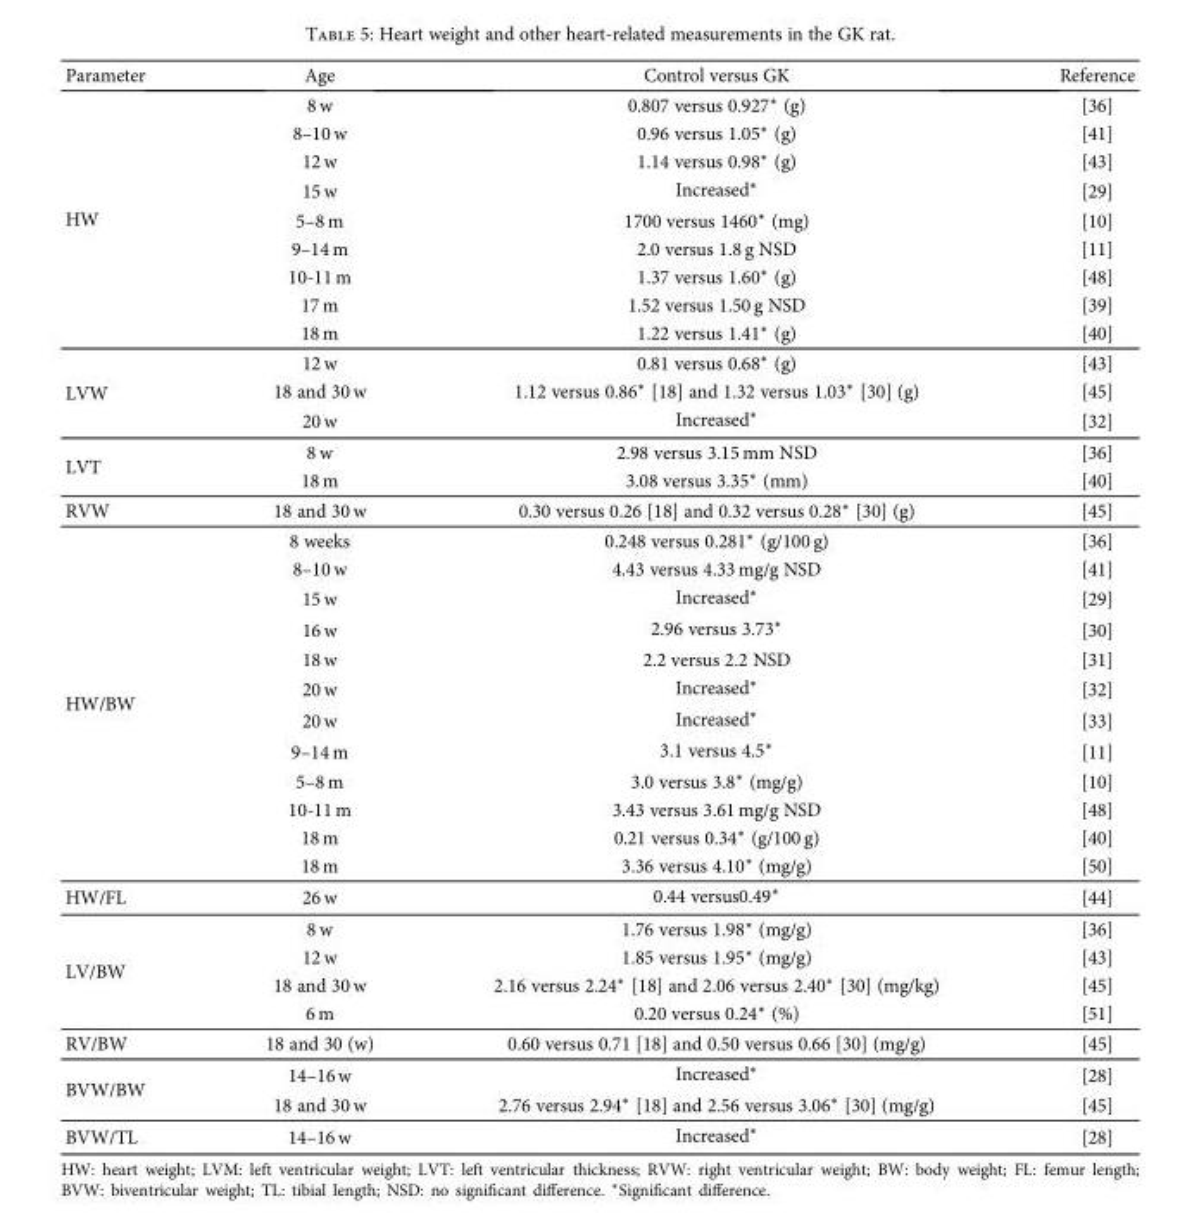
<table><thead><tr><td>Parameter</td><td>Age</td><td>Control versus GK</td><td>Reference</td></tr></thead><tbody><tr><td rowspan="9">HW</td><td>8 w</td><td>0.807 versus 0.927∗ (g)</td><td>[36]</td></tr><tr><td>8–10 w</td><td>0.96 versus 1.05∗ (g)</td><td>[41]</td></tr><tr><td>12 w</td><td>1.14 versus 0.98∗ (g)</td><td>[43]</td></tr><tr><td>15 w</td><td>Increased∗</td><td>[29]</td></tr><tr><td>5–8 m</td><td>1700 versus 1460∗ (mg)</td><td>[10]</td></tr><tr><td>9–14 m</td><td>2.0 versus 1.8 g NSD</td><td>[11]</td></tr><tr><td>10-11 m</td><td>1.37 versus 1.60∗ (g)</td><td>[48]</td></tr><tr><td>17 m</td><td>1.52 versus 1.50 g NSD</td><td>[39]</td></tr><tr><td>18 m</td><td>1.22 versus 1.41∗ (g)</td><td>[40]</td></tr><tr><td rowspan="3">LVW</td><td>12 w</td><td>0.81 versus 0.68∗ (g)</td><td>[43]</td></tr><tr><td>18 and 30 w</td><td>1.12 versus 0.86∗ [18] and 1.32 versus 1.03∗ [30] (g)</td><td>[45]</td></tr><tr><td>20 w</td><td>Increased∗</td><td>[32]</td></tr><tr><td rowspan="2">LVT</td><td>8 w</td><td>2.98 versus 3.15 mm NSD</td><td>[36]</td></tr><tr><td>18 m</td><td>3.08 versus 3.35∗ (mm)</td><td>[40]</td></tr><tr><td>RVW</td><td>18 and 30 w</td><td>0.30 versus 0.26 [18] and 0.32 versus 0.28∗ [30] (g)</td><td>[45]</td></tr><tr><td rowspan="12">HW/BW</td><td>8 weeks</td><td>0.248 versus 0.281∗ (g/100 g)</td><td>[36]</td></tr><tr><td>8–10 w</td><td>4.43 versus 4.33 mg/g NSD</td><td>[41]</td></tr><tr><td>15 w</td><td>Increased∗</td><td>[29]</td></tr><tr><td>16 w</td><td>2.96 versus 3.73∗</td><td>[30]</td></tr><tr><td>18 w</td><td>2.2 versus 2.2 NSD</td><td>[31]</td></tr><tr><td>20 w</td><td>Increased∗</td><td>[32]</td></tr><tr><td>20 w</td><td>Increased∗</td><td>[33]</td></tr><tr><td>9–14 m</td><td>3.1 versus 4.5∗</td><td>[11]</td></tr><tr><td>5–8 m</td><td>3.0 versus 3.8∗ (mg/g)</td><td>[10]</td></tr><tr><td>10-11 m</td><td>3.43 versus 3.61 mg/g NSD</td><td>[48]</td></tr><tr><td>18 m</td><td>0.21 versus 0.34∗ (g/100 g)</td><td>[40]</td></tr><tr><td>18 m</td><td>3.36 versus 4.10∗ (mg/g)</td><td>[50]</td></tr><tr><td>HW/FL</td><td>26 w</td><td>0.44 versus0.49∗</td><td>[44]</td></tr><tr><td rowspan="4">LV/BW</td><td>8 w</td><td>1.76 versus 1.98∗ (mg/g)</td><td>[36]</td></tr><tr><td>12 w</td><td>1.85 versus 1.95∗ (mg/g)</td><td>[43]</td></tr><tr><td>18 and 30 w</td><td>2.16 versus 2.24∗ [18] and 2.06 versus 2.40∗ [30] (mg/kg)</td><td>[45]</td></tr><tr><td>6 m</td><td>0.20 versus 0.24∗ (%)</td><td>[51]</td></tr><tr><td>RV/BW</td><td>18 and 30 (w)</td><td>0.60 versus 0.71 [18] and 0.50 versus 0.66 [30] (mg/g)</td><td>[45]</td></tr><tr><td rowspan="2">BVW/BW</td><td>14–16 w</td><td>Increased∗</td><td>[28]</td></tr><tr><td>18 and 30 w</td><td>2.76 versus 2.94∗ [18] and 2.56 versus 3.06∗ [30] (mg/g)</td><td>[45]</td></tr><tr><td>BVW/TL</td><td>14–16 w</td><td>Increased∗</td><td>[28]</td></tr></tbody></table>